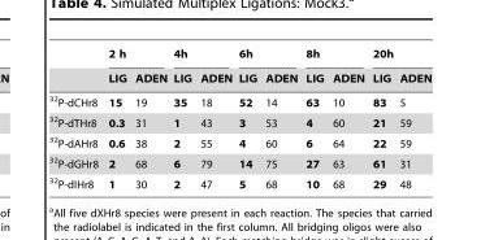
<table><thead><tr><td rowspan="2"></td><td colspan="2">2 h</td><td colspan="2">4h</td><td colspan="2">6h</td><td colspan="2">8h</td><td colspan="2">20h</td></tr><tr><td>LIG</td><td>ADEN</td><td>LIG</td><td>ADEN</td><td>LIG</td><td>ADEN</td><td>LIG</td><td>ADEN</td><td>LIG</td><td>ADEN</td></tr></thead><tbody><tr><td><sup>32</sup>P-dCHr8</td><td>15</td><td>19</td><td>35</td><td>18</td><td>52</td><td>14</td><td>63</td><td>10</td><td>83</td><td>5</td></tr><tr><td><sup>32</sup>P-dTHr8</td><td>0.3</td><td>31</td><td>1</td><td>43</td><td>3</td><td>53</td><td>4</td><td>60</td><td>21</td><td>59</td></tr><tr><td><sup>32</sup>P-dAHr8</td><td>0.6</td><td>38</td><td>2</td><td>55</td><td>4</td><td>60</td><td>6</td><td>64</td><td>22</td><td>59</td></tr><tr><td><sup>32</sup>P-dGHr8</td><td>2</td><td>68</td><td>6</td><td>79</td><td>14</td><td>75</td><td>27</td><td>63</td><td>61</td><td>31</td></tr><tr><td><sup>32</sup>P-dIHr8</td><td>1</td><td>30</td><td>2</td><td>47</td><td>5</td><td>68</td><td>10</td><td>68</td><td>29</td><td>48</td></tr></tbody></table>